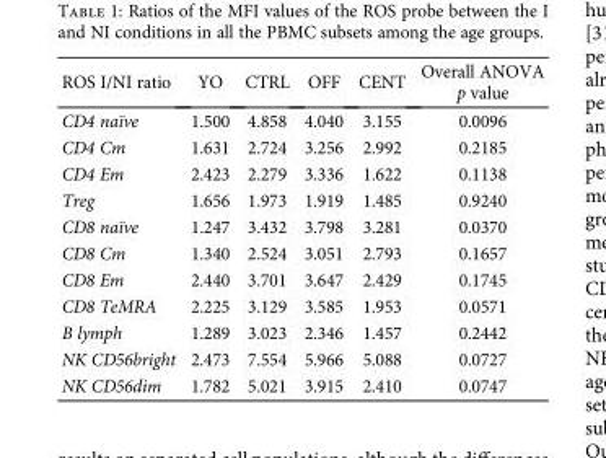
<table><thead><tr><td>ROS I/NI ratio</td><td>YO</td><td>CTRL</td><td>OFF</td><td>CENT</td><td>Overall ANOVA p value</td></tr></thead><tbody><tr><td>CD4 naïve</td><td>1.500</td><td>4.858</td><td>4.040</td><td>3.155</td><td>0.0096</td></tr><tr><td>CD4 Cm</td><td>1.631</td><td>2.724</td><td>3.256</td><td>2.992</td><td>0.2185</td></tr><tr><td>CD4 Em</td><td>2.423</td><td>2.279</td><td>3.336</td><td>1.622</td><td>0.1138</td></tr><tr><td>Treg</td><td>1.656</td><td>1.973</td><td>1.919</td><td>1.485</td><td>0.9240</td></tr><tr><td>CD8 naïve</td><td>1.247</td><td>3.432</td><td>3.798</td><td>3.281</td><td>0.0370</td></tr><tr><td>CD8 Cm</td><td>1.340</td><td>2.524</td><td>3.051</td><td>2.793</td><td>0.1657</td></tr><tr><td>CD8 Em</td><td>2.440</td><td>3.701</td><td>3.647</td><td>2.429</td><td>0.1745</td></tr><tr><td>CD8 TeMRA</td><td>2.225</td><td>3.129</td><td>3.585</td><td>1.953</td><td>0.0571</td></tr><tr><td>B lymph</td><td>1.289</td><td>3.023</td><td>2.346</td><td>1.457</td><td>0.2442</td></tr><tr><td>NK CD56bright</td><td>2.473</td><td>7.554</td><td>5.966</td><td>5.088</td><td>0.0727</td></tr><tr><td>NK CD56dim</td><td>1.782</td><td>5.021</td><td>3.915</td><td>2.410</td><td>0.0747</td></tr></tbody></table>